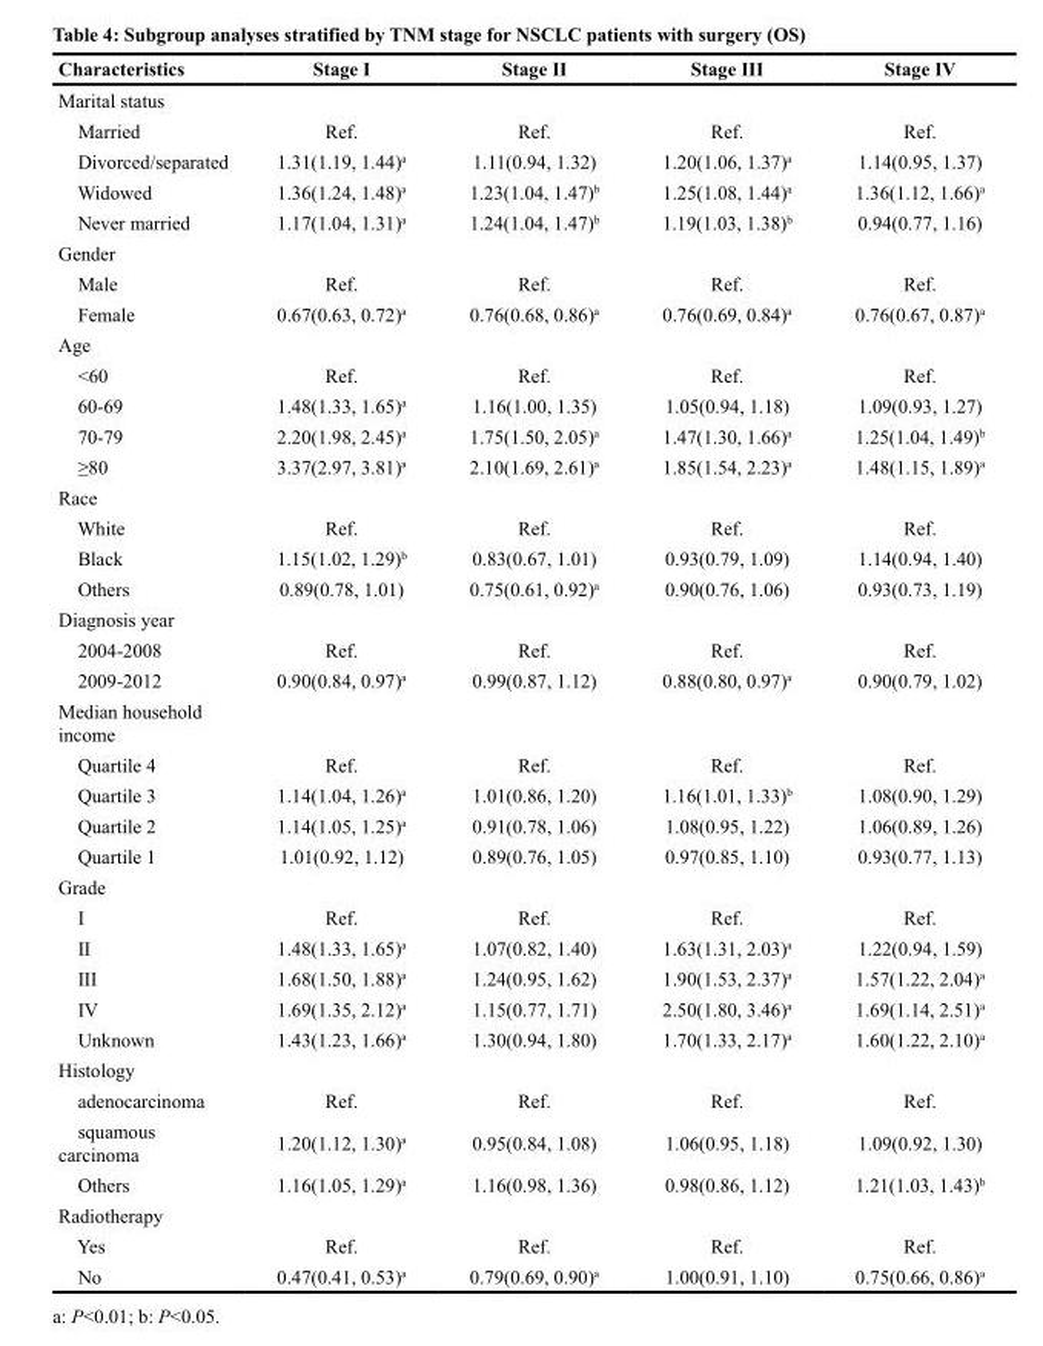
<table><thead><tr><td>Characteristics</td><td>Stage I</td><td>Stage II</td><td>Stage III</td><td>Stage IV</td></tr></thead><tbody><tr><td colspan="5">Marital status</td></tr><tr><td>Married</td><td>Ref.</td><td>Ref.</td><td>Ref.</td><td>Ref.</td></tr><tr><td>Divorced/separated</td><td>1.31(1.19, 1.44)<sup>a</sup></td><td>1.11(0.94, 1.32)</td><td>1.20(1.06, 1.37)<sup>a</sup></td><td>1.14(0.95, 1.37)</td></tr><tr><td>Widowed</td><td>1.36(1.24, 1.48)<sup>a</sup></td><td>1.23(1.04, 1.47)<sup>b</sup></td><td>1.25(1.08, 1.44)<sup>a</sup></td><td>1.36(1.12, 1.66)<sup>a</sup></td></tr><tr><td>Never married</td><td>1.17(1.04, 1.31)<sup>a</sup></td><td>1.24(1.04, 1.47)<sup>b</sup></td><td>1.19(1.03, 1.38)<sup>b</sup></td><td>0.94(0.77, 1.16)</td></tr><tr><td colspan="5">Gender</td></tr><tr><td>Male</td><td>Ref.</td><td>Ref.</td><td>Ref.</td><td>Ref.</td></tr><tr><td>Female</td><td>0.67(0.63, 0.72)<sup>a</sup></td><td>0.76(0.68, 0.86)<sup>a</sup></td><td>0.76(0.69, 0.84)<sup>a</sup></td><td>0.76(0.67, 0.87)<sup>a</sup></td></tr><tr><td colspan="5">Age</td></tr><tr><td>&lt;60</td><td>Ref.</td><td>Ref.</td><td>Ref.</td><td>Ref.</td></tr><tr><td>60-69</td><td>1.48(1.33, 1.65)<sup>a</sup></td><td>1.16(1.00, 1.35)</td><td>1.05(0.94, 1.18)</td><td>1.09(0.93, 1.27)</td></tr><tr><td>70-79</td><td>2.20(1.98, 2.45)<sup>a</sup></td><td>1.75(1.50, 2.05)<sup>a</sup></td><td>1.47(1.30, 1.66)<sup>a</sup></td><td>1.25(1.04, 1.49)<sup>b</sup></td></tr><tr><td>≥80</td><td>3.37(2.97, 3.81)<sup>a</sup></td><td>2.10(1.69, 2.61)<sup>a</sup></td><td>1.85(1.54, 2.23)<sup>a</sup></td><td>1.48(1.15, 1.89)<sup>a</sup></td></tr><tr><td colspan="5">Race</td></tr><tr><td>White</td><td>Ref.</td><td>Ref.</td><td>Ref.</td><td>Ref.</td></tr><tr><td>Black</td><td>1.15(1.02, 1.29)<sup>b</sup></td><td>0.83(0.67, 1.01)</td><td>0.93(0.79, 1.09)</td><td>1.14(0.94, 1.40)</td></tr><tr><td>Others</td><td>0.89(0.78, 1.01)</td><td>0.75(0.61, 0.92)<sup>a</sup></td><td>0.90(0.76, 1.06)</td><td>0.93(0.73, 1.19)</td></tr><tr><td colspan="5">Diagnosis year</td></tr><tr><td>2004-2008</td><td>Ref.</td><td>Ref.</td><td>Ref.</td><td>Ref.</td></tr><tr><td>2009-2012</td><td>0.90(0.84, 0.97)<sup>a</sup></td><td>0.99(0.87, 1.12)</td><td>0.88(0.80, 0.97)<sup>a</sup></td><td>0.90(0.79, 1.02)</td></tr><tr><td colspan="5">Median household income</td></tr><tr><td>Quartile 4</td><td>Ref.</td><td>Ref.</td><td>Ref.</td><td>Ref.</td></tr><tr><td>Quartile 3</td><td>1.14(1.04, 1.26)<sup>a</sup></td><td>1.01(0.86, 1.20)</td><td>1.16(1.01, 1.33)<sup>b</sup></td><td>1.08(0.90, 1.29)</td></tr><tr><td>Quartile 2</td><td>1.14(1.05, 1.25)<sup>a</sup></td><td>0.91(0.78, 1.06)</td><td>1.08(0.95, 1.22)</td><td>1.06(0.89, 1.26)</td></tr><tr><td>Quartile 1</td><td>1.01(0.92, 1.12)</td><td>0.89(0.76, 1.05)</td><td>0.97(0.85, 1.10)</td><td>0.93(0.77, 1.13)</td></tr><tr><td colspan="5">Grade</td></tr><tr><td>I</td><td>Ref.</td><td>Ref.</td><td>Ref.</td><td>Ref.</td></tr><tr><td>II</td><td>1.48(1.33, 1.65)<sup>a</sup></td><td>1.07(0.82, 1.40)</td><td>1.63(1.31, 2.03)<sup>a</sup></td><td>1.22(0.94, 1.59)</td></tr><tr><td>III</td><td>1.68(1.50, 1.88)<sup>a</sup></td><td>1.24(0.95, 1.62)</td><td>1.90(1.53, 2.37)<sup>a</sup></td><td>1.57(1.22, 2.04)<sup>a</sup></td></tr><tr><td>IV</td><td>1.69(1.35, 2.12)<sup>a</sup></td><td>1.15(0.77, 1.71)</td><td>2.50(1.80, 3.46)<sup>a</sup></td><td>1.69(1.14, 2.51)<sup>a</sup></td></tr><tr><td>Unknown</td><td>1.43(1.23, 1.66)<sup>a</sup></td><td>1.30(0.94, 1.80)</td><td>1.70(1.33, 2.17)<sup>a</sup></td><td>1.60(1.22, 2.10)<sup>a</sup></td></tr><tr><td colspan="5">Histology</td></tr><tr><td>adenocarcinoma</td><td>Ref.</td><td>Ref.</td><td>Ref.</td><td>Ref.</td></tr><tr><td>squamous carcinoma</td><td>1.20(1.12, 1.30)<sup>a</sup></td><td>0.95(0.84, 1.08)</td><td>1.06(0.95, 1.18)</td><td>1.09(0.92, 1.30)</td></tr><tr><td>Others</td><td>1.16(1.05, 1.29)<sup>a</sup></td><td>1.16(0.98, 1.36)</td><td>0.98(0.86, 1.12)</td><td>1.21(1.03, 1.43)<sup>b</sup></td></tr><tr><td colspan="5">Radiotherapy</td></tr><tr><td>Yes</td><td>Ref.</td><td>Ref.</td><td>Ref.</td><td>Ref.</td></tr><tr><td>No</td><td>0.47(0.41, 0.53)<sup>a</sup></td><td>0.79(0.69, 0.90)<sup>a</sup></td><td>1.00(0.91, 1.10)</td><td>0.75(0.66, 0.86)<sup>a</sup></td></tr></tbody></table>